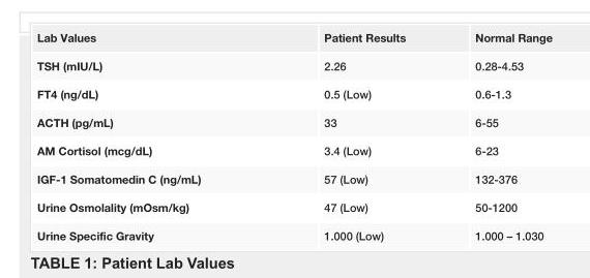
<table><tbody><tr><td>Lab Values</td><td>Patient Results</td><td>Normal Range</td></tr><tr><td>TSH (mIU/L)</td><td>2.26</td><td>0.28-4.53</td></tr><tr><td>FT4 (ng/dL)</td><td>0.5 (Low)</td><td>0.6-1.3</td></tr><tr><td>ACTH (pg/mL)</td><td>33</td><td>6-55</td></tr><tr><td>AM Cortisol (mcg/dL)</td><td>3.4 (Low)</td><td>6-23</td></tr><tr><td>IGF-1 Somatomedin C (ng/mL)</td><td>57 (Low)</td><td>132-376</td></tr><tr><td>Urine Osmolality (mOsm/kg)</td><td>47 (Low)</td><td>50-1200</td></tr><tr><td>Urine Specific Gravity</td><td>1.000 (Low)</td><td>1.000 – 1.030</td></tr></tbody></table>